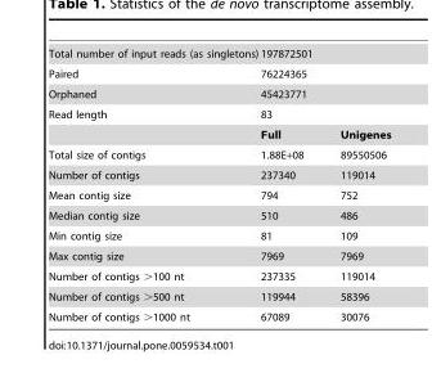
<table><tbody><tr><td>Total number of input reads (as singletons)</td><td>197872501</td><td></td></tr><tr><td>Paired</td><td>76224365</td><td></td></tr><tr><td>Orphaned</td><td>45423771</td><td></td></tr><tr><td rowspan="2">Read length</td><td>83</td><td></td></tr><tr><td>Full</td><td>Unigenes</td></tr><tr><td>Total size of contigs</td><td>1.88E+08</td><td>89550506</td></tr><tr><td>Number of contigs</td><td>237340</td><td>119014</td></tr><tr><td>Mean contig size</td><td>794</td><td>752</td></tr><tr><td>Median contig size</td><td>510</td><td>486</td></tr><tr><td>Min contig size</td><td>81</td><td>109</td></tr><tr><td>Max contig size</td><td>7969</td><td>7969</td></tr><tr><td>Number of contigs &gt;100 nt</td><td>237335</td><td>119014</td></tr><tr><td>Number of contigs &gt;500 nt</td><td>119944</td><td>58396</td></tr><tr><td>Number of contigs &gt;1000 nt</td><td>67089</td><td>30076</td></tr></tbody></table>